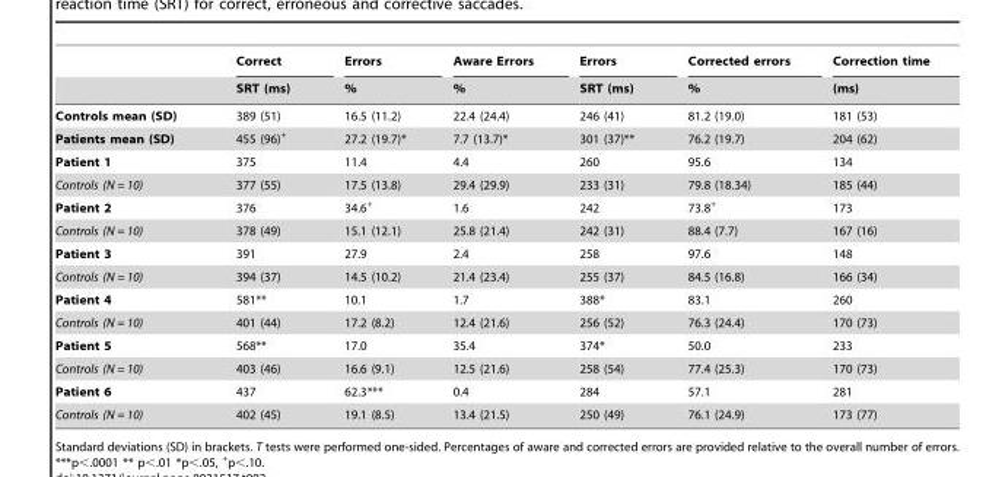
<table><thead><tr><td rowspan="2"></td><td rowspan="2">Correct SRT (ms)</td><td rowspan="2">Errors %</td><td rowspan="2">Aware Errors %</td><td rowspan="2">Errors SRT (ms)</td><td rowspan="2">Corrected errors %</td><td rowspan="2">Correction time (ms)</td></tr><tr></tr></thead><tbody><tr><td>Controls mean (SD)</td><td>389 (51)</td><td>16.5 (11.2)</td><td>22.4 (24.4)</td><td>246 (41)</td><td>81.2 (19.0)</td><td>181 (53)</td></tr><tr><td>Patients mean (SD)</td><td>455 (96)<sup>+</sup></td><td>27.2 (19.7)*</td><td>7.7 (13.7)*</td><td>301 (37)**</td><td>76.2 (19.7)</td><td>204 (62)</td></tr><tr><td>Patient 1</td><td>375</td><td>11.4</td><td>4.4</td><td>260</td><td>95.6</td><td>134</td></tr><tr><td>Controls (N = 10)</td><td>377 (55)</td><td>17.5 (13.8)</td><td>29.4 (29.9)</td><td>233 (31)</td><td>79.8 (18.34)</td><td>185 (44)</td></tr><tr><td>Patient 2</td><td>376</td><td>34.6<sup>+</sup></td><td>1.6</td><td>242</td><td>73.8<sup>+</sup></td><td>173</td></tr><tr><td>Controls (N = 10)</td><td>378 (49)</td><td>15.1 (12.1)</td><td>25.8 (21.4)</td><td>242 (31)</td><td>88.4 (7.7)</td><td>167 (16)</td></tr><tr><td>Patient 3</td><td>391</td><td>27.9</td><td>2.4</td><td>258</td><td>97.6</td><td>148</td></tr><tr><td>Controls (N = 10)</td><td>394 (37)</td><td>14.5 (10.2)</td><td>21.4 (23.4)</td><td>255 (37)</td><td>84.5 (16.8)</td><td>166 (34)</td></tr><tr><td>Patient 4</td><td>581**</td><td>10.1</td><td>1.7</td><td>388*</td><td>83.1</td><td>260</td></tr><tr><td>Controls (N = 10)</td><td>401 (44)</td><td>17.2 (8.2)</td><td>12.4 (21.6)</td><td>256 (52)</td><td>76.3 (24.4)</td><td>170 (73)</td></tr><tr><td>Patient 5</td><td>568**</td><td>17.0</td><td>35.4</td><td>374*</td><td>50.0</td><td>233</td></tr><tr><td>Controls (N = 10)</td><td>403 (46)</td><td>16.6 (9.1)</td><td>12.5 (21.6)</td><td>258 (54)</td><td>77.4 (25.3)</td><td>170 (73)</td></tr><tr><td>Patient 6</td><td>437</td><td>62.3***</td><td>0.4</td><td>284</td><td>57.1</td><td>281</td></tr><tr><td>Controls (N = 10)</td><td>402 (45)</td><td>19.1 (8.5)</td><td>13.4 (21.5)</td><td>250 (49)</td><td>76.1 (24.9)</td><td>173 (77)</td></tr></tbody></table>